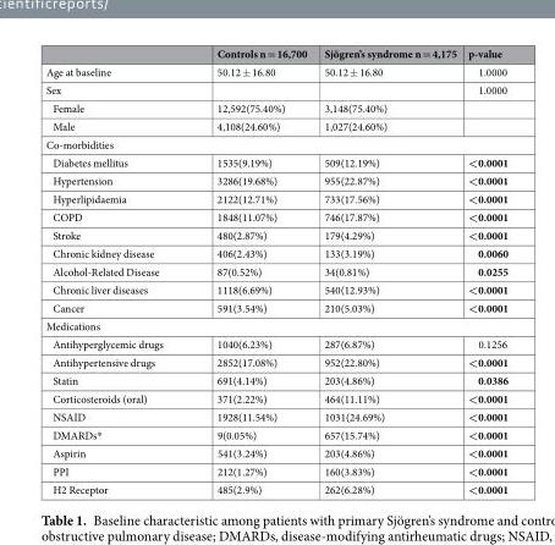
<table><thead><tr><td></td><td>Controls n = 16,700</td><td>Sjögren’s syndrome n = 4,175</td><td>p-value</td></tr></thead><tbody><tr><td>Age at baseline</td><td>50.12 ± 16.80</td><td>50.12 ± 16.80</td><td>1.0000</td></tr><tr><td>Sex</td><td></td><td></td><td>1.0000</td></tr><tr><td>Female</td><td>12,592(75.40%)</td><td>3,148(75.40%)</td><td></td></tr><tr><td>Male</td><td>4,108(24.60%)</td><td>1,027(24.60%)</td><td></td></tr><tr><td colspan="4">Co-morbidities</td></tr><tr><td>Diabetes mellitus</td><td>1535(9.19%)</td><td>509(12.19%)</td><td>&lt;0.0001</td></tr><tr><td>Hypertension</td><td>3286(19.68%)</td><td>955(22.87%)</td><td>&lt;0.0001</td></tr><tr><td>Hyperlipidaemia</td><td>2122(12.71%)</td><td>733(17.56%)</td><td>&lt;0.0001</td></tr><tr><td>COPD</td><td>1848(11.07%)</td><td>746(17.87%)</td><td>&lt;0.0001</td></tr><tr><td>Stroke</td><td>480(2.87%)</td><td>179(4.29%)</td><td>&lt;0.0001</td></tr><tr><td>Chronic kidney disease</td><td>406(2.43%)</td><td>133(3.19%)</td><td>0.0060</td></tr><tr><td>Alcohol-Related Disease</td><td>87(0.52%)</td><td>34(0.81%)</td><td>0.0255</td></tr><tr><td>Chronic liver diseases</td><td>1118(6.69%)</td><td>540(12.93%)</td><td>&lt;0.0001</td></tr><tr><td>Cancer</td><td>591(3.54%)</td><td>210(5.03%)</td><td>&lt;0.0001</td></tr><tr><td colspan="4">Medications</td></tr><tr><td>Antihyperglycemic drugs</td><td>1040(6.23%)</td><td>287(6.87%)</td><td>0.1256</td></tr><tr><td>Antihypertensive drugs</td><td>2852(17.08%)</td><td>952(22.80%)</td><td>&lt;0.0001</td></tr><tr><td>Statin</td><td>691(4.14%)</td><td>203(4.86%)</td><td>0.0386</td></tr><tr><td>Corticosteroids (oral)</td><td>371(2.22%)</td><td>464(11.11%)</td><td>&lt;0.0001</td></tr><tr><td>NSAID</td><td>1928(11.54%)</td><td>1031(24.69%)</td><td>&lt;0.0001</td></tr><tr><td>DMARDs*</td><td>9(0.05%)</td><td>657(15.74%)</td><td>&lt;0.0001</td></tr><tr><td>Aspirin</td><td>541(3.24%)</td><td>203(4.86%)</td><td>&lt;0.0001</td></tr><tr><td>PPI</td><td>212(1.27%)</td><td>160(3.83%)</td><td>&lt;0.0001</td></tr><tr><td>H2 Receptor</td><td>485(2.9%)</td><td>262(6.28%)</td><td>&lt;0.0001</td></tr></tbody></table>